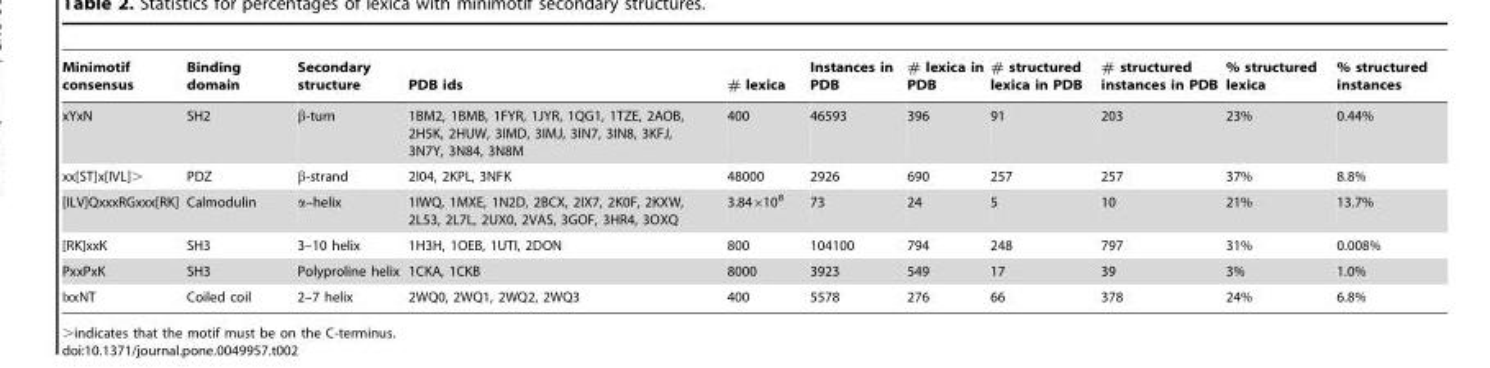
<table><thead><tr><td>Minimotif consensus</td><td>Binding domain</td><td>Secondary structure</td><td>PDB ids</td><td># lexica</td><td>Instances in PDB</td><td># lexica in PDB</td><td># structured lexica in PDB</td><td># structured instances in PDB</td><td>% structured lexica</td><td>% structured instances</td></tr></thead><tbody><tr><td>xYxN</td><td>SH2</td><td>β-turn</td><td>1BM2, 1BMB, 1FYR, 1JYR, 1QG1, 1TZE, 2AOB, 2H5K, 2HUW, 3IMD, 3IMJ, 3IN7, 3IN8, 3KFJ, 3N7Y, 3N84, 3N8M</td><td>400</td><td>46593</td><td>396</td><td>91</td><td>203</td><td>23%</td><td>0.44%</td></tr><tr><td>xx[ST]x[IVL]&gt;</td><td>PDZ</td><td>β-strand</td><td>2I04, 2KPL, 3NFK</td><td>48000</td><td>2926</td><td>690</td><td>257</td><td>257</td><td>37%</td><td>8.8%</td></tr><tr><td>[ILV]QxxxRGxxx[RK]</td><td>Calmodulin</td><td>α–helix</td><td>1IWQ, 1MXE, 1N2D, 2BCX, 2IX7, 2K0F, 2KXW, 2L53, 2L7L, 2UX0, 2VAS, 3GOF, 3HR4, 3OXQ</td><td>3.84×10<sup>8</sup></td><td>73</td><td>24</td><td>5</td><td>10</td><td>21%</td><td>13.7%</td></tr><tr><td>[RK]xxK</td><td>SH3</td><td>3–10 helix</td><td>1H3H, 1OEB, 1UTI, 2DON</td><td>800</td><td>104100</td><td>794</td><td>248</td><td>797</td><td>31%</td><td>0.008%</td></tr><tr><td>PxxPxK</td><td>SH3</td><td>Polyproline helix</td><td>1CKA, 1CKB</td><td>8000</td><td>3923</td><td>549</td><td>17</td><td>39</td><td>3%</td><td>1.0%</td></tr><tr><td>IxxNT</td><td>Coiled coil</td><td>2–7 helix</td><td>2WQ0, 2WQ1, 2WQ2, 2WQ3</td><td>400</td><td>5578</td><td>276</td><td>66</td><td>378</td><td>24%</td><td>6.8%</td></tr></tbody></table>